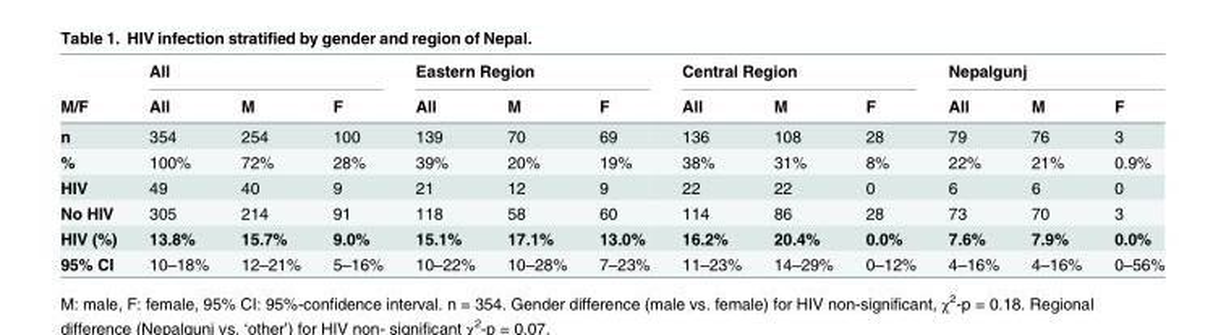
<table><thead><tr><td rowspan="2">M/F</td><td colspan="3">All</td><td colspan="3">Eastern Region</td><td colspan="3">Central Region</td><td colspan="3">Nepalgunj</td></tr><tr><td>All</td><td>M</td><td>F</td><td>All</td><td>M</td><td>F</td><td>All</td><td>M</td><td>F</td><td>All</td><td>M</td><td>F</td></tr></thead><tbody><tr><td>n</td><td>354</td><td>254</td><td>100</td><td>139</td><td>70</td><td>69</td><td>136</td><td>108</td><td>28</td><td>79</td><td>76</td><td>3</td></tr><tr><td>%</td><td>100%</td><td>72%</td><td>28%</td><td>39%</td><td>20%</td><td>19%</td><td>38%</td><td>31%</td><td>8%</td><td>22%</td><td>21%</td><td>0.9%</td></tr><tr><td>HIV</td><td>49</td><td>40</td><td>9</td><td>21</td><td>12</td><td>9</td><td>22</td><td>22</td><td>0</td><td>6</td><td>6</td><td>0</td></tr><tr><td>No HIV</td><td>305</td><td>214</td><td>91</td><td>118</td><td>58</td><td>60</td><td>114</td><td>86</td><td>28</td><td>73</td><td>70</td><td>3</td></tr><tr><td>HIV (%)</td><td>13.8%</td><td>15.7%</td><td>9.0%</td><td>15.1%</td><td>17.1%</td><td>13.0%</td><td>16.2%</td><td>20.4%</td><td>0.0%</td><td>7.6%</td><td>7.9%</td><td>0.0%</td></tr><tr><td>95% CI</td><td>10–18%</td><td>12–21%</td><td>5–16%</td><td>10–22%</td><td>10–28%</td><td>7–23%</td><td>11–23%</td><td>14–29%</td><td>0–12%</td><td>4–16%</td><td>4–16%</td><td>0–56%</td></tr></tbody></table>